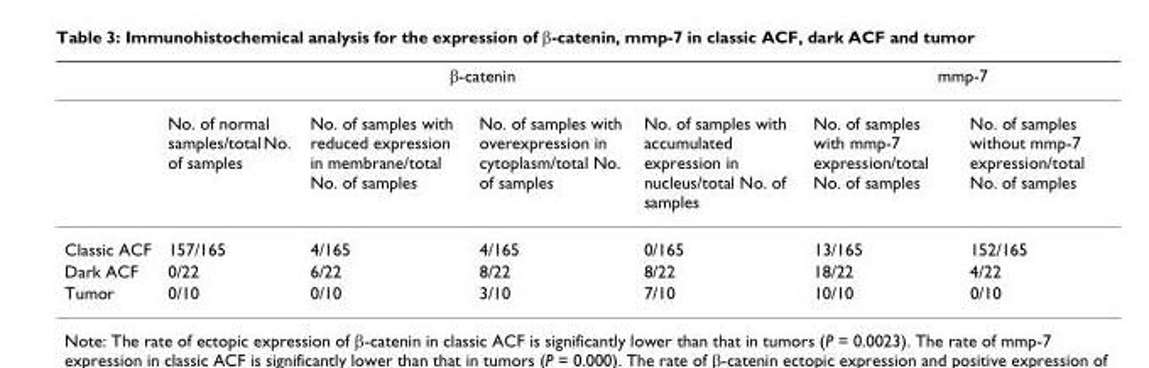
<table><thead><tr><td rowspan="2"></td><td colspan="4">β-catenin</td><td colspan="2">mmp-7</td></tr><tr><td>No. of normal samples/total No. of samples</td><td>No. of samples with reduced expression in membrane/total No. of samples</td><td>No. of samples with overexpression in cytoplasm/total No. of samples</td><td>No. of samples with accumulated expression in nucleus/total No. of samples</td><td>No. of samples with mmp-7 expression/total No. of samples</td><td>No. of samples without mmp-7 expression/total No. of samples</td></tr></thead><tbody><tr><td>Classic ACF</td><td>157/165</td><td>4/165</td><td>4/165</td><td>0/165</td><td>13/165</td><td>152/165</td></tr><tr><td>Dark ACF</td><td>0/22</td><td>6/22</td><td>8/22</td><td>8/22</td><td>18/22</td><td>4/22</td></tr><tr><td>Tumor</td><td>0/10</td><td>0/10</td><td>3/10</td><td>7/10</td><td>10/10</td><td>0/10</td></tr></tbody></table>